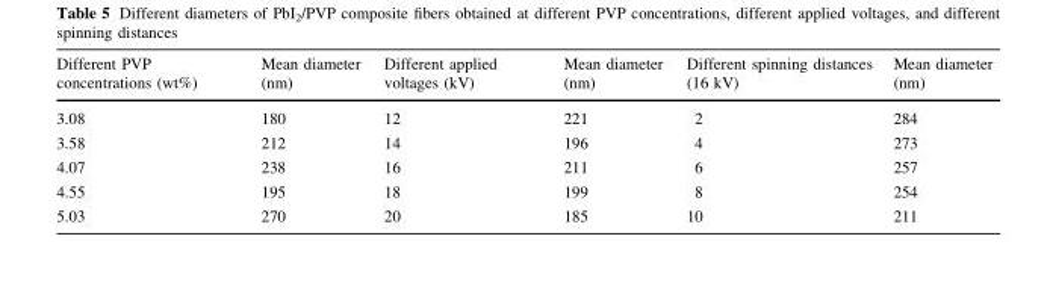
<table><thead><tr><td>Different PVP concentrations (wt%)</td><td>Mean diameter (nm)</td><td>Different applied voltages (kV)</td><td>Mean diameter (nm)</td><td>Different spinning distances (16 kV)</td><td>Mean diameter (nm)</td></tr></thead><tbody><tr><td>3.08</td><td>180</td><td>12</td><td>221</td><td>2</td><td>284</td></tr><tr><td>3.58</td><td>212</td><td>14</td><td>196</td><td>4</td><td>273</td></tr><tr><td>4.07</td><td>238</td><td>16</td><td>211</td><td>6</td><td>257</td></tr><tr><td>4.55</td><td>195</td><td>18</td><td>199</td><td>8</td><td>254</td></tr><tr><td>5.03</td><td>270</td><td>20</td><td>185</td><td>10</td><td>211</td></tr></tbody></table>